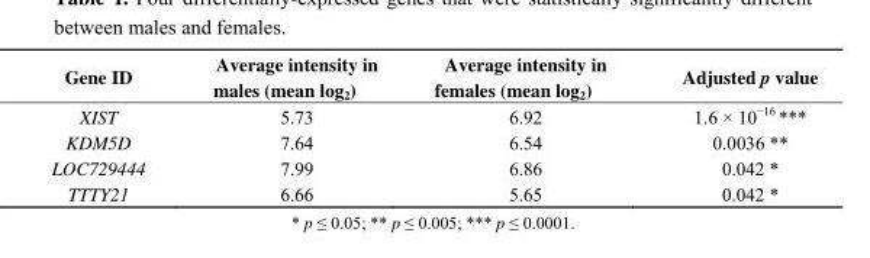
<table><thead><tr><td>Gene ID</td><td>Average intensity in males (mean log<sub>2</sub>)</td><td>Average intensity in females (mean log<sub>2</sub>)</td><td>Adjusted p value</td></tr></thead><tbody><tr><td>XIST</td><td>5.73</td><td>6.92</td><td>1.6 × 10<sup>−16</sup> ***</td></tr><tr><td>KDM5D</td><td>7.64</td><td>6.54</td><td>0.0036 **</td></tr><tr><td>LOC729444</td><td>7.99</td><td>6.86</td><td>0.042 *</td></tr><tr><td>TTTY21</td><td>6.66</td><td>5.65</td><td>0.042 *</td></tr></tbody></table>